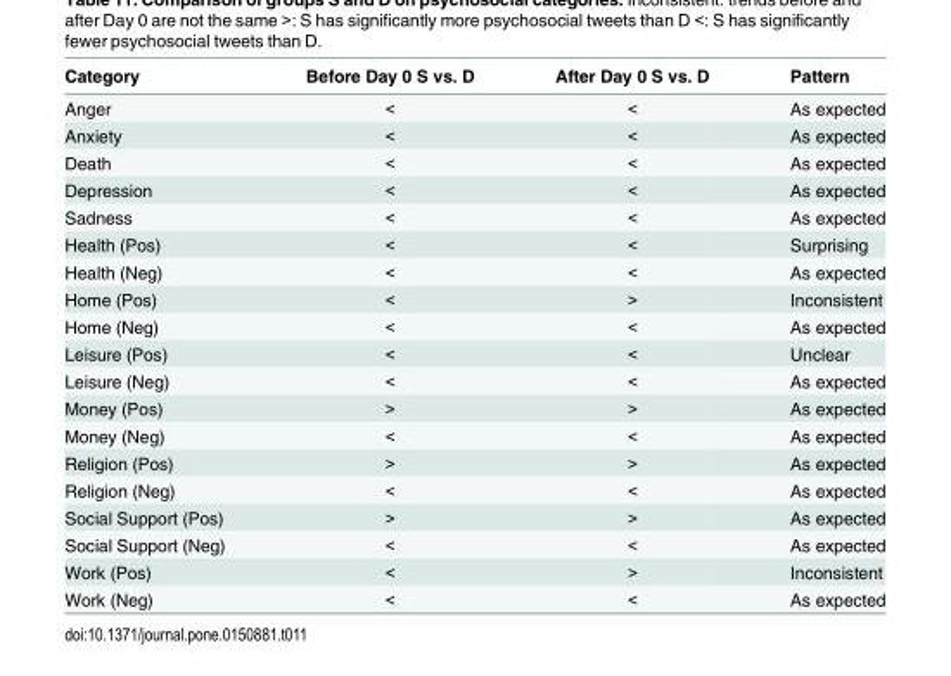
<table><thead><tr><td>Category</td><td>Before Day 0 S vs. D</td><td>After Day 0 S vs. D</td><td>Pattern</td></tr></thead><tbody><tr><td>Anger</td><td>&lt;</td><td>&lt;</td><td>As expected</td></tr><tr><td>Anxiety</td><td>&lt;</td><td>&lt;</td><td>As expected</td></tr><tr><td>Death</td><td>&lt;</td><td>&lt;</td><td>As expected</td></tr><tr><td>Depression</td><td>&lt;</td><td>&lt;</td><td>As expected</td></tr><tr><td>Sadness</td><td>&lt;</td><td>&lt;</td><td>As expected</td></tr><tr><td>Health (Pos)</td><td>&lt;</td><td>&lt;</td><td>Surprising</td></tr><tr><td>Health (Neg)</td><td>&lt;</td><td>&lt;</td><td>As expected</td></tr><tr><td>Home (Pos)</td><td>&lt;</td><td>&gt;</td><td>Inconsistent</td></tr><tr><td>Home (Neg)</td><td>&lt;</td><td>&lt;</td><td>As expected</td></tr><tr><td>Leisure (Pos)</td><td>&lt;</td><td>&lt;</td><td>Unclear</td></tr><tr><td>Leisure (Neg)</td><td>&lt;</td><td>&lt;</td><td>As expected</td></tr><tr><td>Money (Pos)</td><td>&gt;</td><td>&gt;</td><td>As expected</td></tr><tr><td>Money (Neg)</td><td>&lt;</td><td>&lt;</td><td>As expected</td></tr><tr><td>Religion (Pos)</td><td>&gt;</td><td>&gt;</td><td>As expected</td></tr><tr><td>Religion (Neg)</td><td>&lt;</td><td>&lt;</td><td>As expected</td></tr><tr><td>Social Support (Pos)</td><td>&gt;</td><td>&gt;</td><td>As expected</td></tr><tr><td>Social Support (Neg)</td><td>&lt;</td><td>&lt;</td><td>As expected</td></tr><tr><td>Work (Pos)</td><td>&lt;</td><td>&gt;</td><td>Inconsistent</td></tr><tr><td>Work (Neg)</td><td>&lt;</td><td>&lt;</td><td>As expected</td></tr></tbody></table>